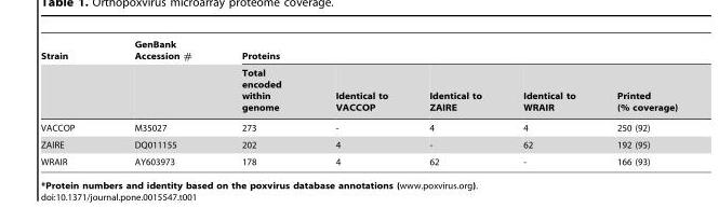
<table><thead><tr><td rowspan="2">Strain</td><td rowspan="2">GenBank Accession #</td><td colspan="5">Proteins</td></tr><tr><td>Total encoded within genome</td><td>Identical to VACCOP</td><td>Identical to ZAIRE</td><td>Identical to WRAIR</td><td>Printed (% coverage)</td></tr></thead><tbody><tr><td>VACCOP</td><td>M35027</td><td>273</td><td>-</td><td>4</td><td>4</td><td>250 (92)</td></tr><tr><td>ZAIRE</td><td>DQ011155</td><td>202</td><td>4</td><td>-</td><td>62</td><td>192 (95)</td></tr><tr><td>WRAIR</td><td>AY603973</td><td>178</td><td>4</td><td>62</td><td>-</td><td>166 (93)</td></tr></tbody></table>